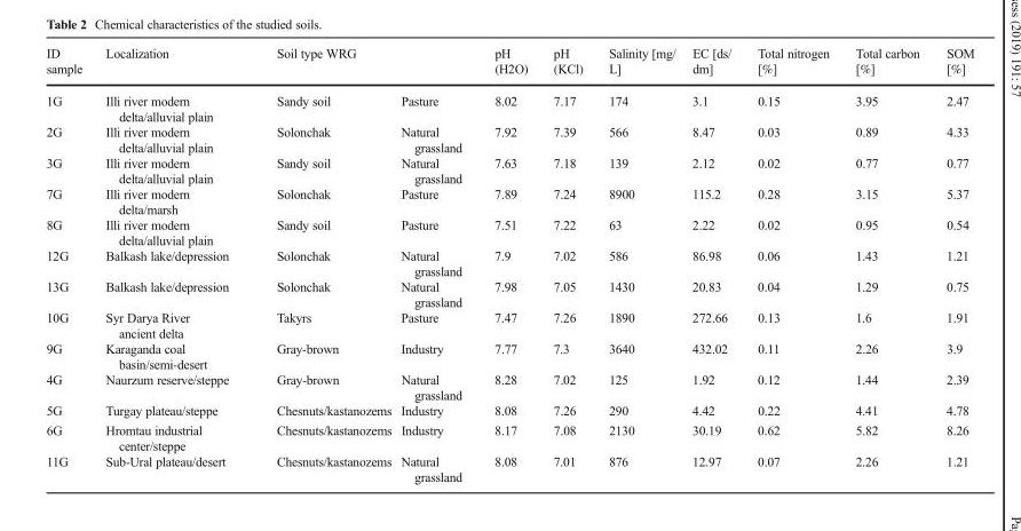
<table><thead><tr><td>ID sample</td><td>Localization</td><td>Soil type WRG</td><td></td><td>pH (H2O)</td><td>pH (KCl)</td><td>Salinity [mg/ L]</td><td>EC [ds/ dm]</td><td>Total nitrogen [%]</td><td>Total carbon [%]</td><td>SOM [%]</td></tr></thead><tbody><tr><td>1G</td><td>Illi river modern delta/alluvial plain</td><td>Sandy soil</td><td>Pasture</td><td>8.02</td><td>7.17</td><td>174</td><td>3.1</td><td>0.15</td><td>3.95</td><td>2.47</td></tr><tr><td>2G</td><td>Illi river modern delta/alluvial plain</td><td>Solonchak</td><td>Natural grassland</td><td>7.92</td><td>7.39</td><td>566</td><td>8.47</td><td>0.03</td><td>0.89</td><td>4.33</td></tr><tr><td>3G</td><td>Illi river modern delta/alluvial plain</td><td>Sandy soil</td><td>Natural grassland</td><td>7.63</td><td>7.18</td><td>139</td><td>2.12</td><td>0.02</td><td>0.77</td><td>0.77</td></tr><tr><td>7G</td><td>Illi river modern delta/marsh</td><td>Solonchak</td><td>Pasture</td><td>7.89</td><td>7.24</td><td>8900</td><td>115.2</td><td>0.28</td><td>3.15</td><td>5.37</td></tr><tr><td>8G</td><td>Illi river modern delta/alluvial plain</td><td>Sandy soil</td><td>Pasture</td><td>7.51</td><td>7.22</td><td>63</td><td>2.22</td><td>0.02</td><td>0.95</td><td>0.54</td></tr><tr><td>12G</td><td>Balkash lake/depression</td><td>Solonchak</td><td>Natural grassland</td><td>7.9</td><td>7.02</td><td>586</td><td>86.98</td><td>0.06</td><td>1.43</td><td>1.21</td></tr><tr><td>13G</td><td>Balkash lake/depression</td><td>Solonchak</td><td>Natural grassland</td><td>7.98</td><td>7.05</td><td>1430</td><td>20.83</td><td>0.04</td><td>1.29</td><td>0.75</td></tr><tr><td>10G</td><td>Syr Darya River ancient delta</td><td>Takyrs</td><td>Pasture</td><td>7.47</td><td>7.26</td><td>1890</td><td>272.66</td><td>0.13</td><td>1.6</td><td>1.91</td></tr><tr><td>9G</td><td>Karaganda coal basin/semi-desert</td><td>Gray-brown</td><td>Industry</td><td>7.77</td><td>7.3</td><td>3640</td><td>432.02</td><td>0.11</td><td>2.26</td><td>3.9</td></tr><tr><td>4G</td><td>Naurzum reserve/steppe</td><td>Gray-brown</td><td>Natural grassland</td><td>8.28</td><td>7.02</td><td>125</td><td>1.92</td><td>0.12</td><td>1.44</td><td>2.39</td></tr><tr><td>5G</td><td>Turgay plateau/steppe</td><td>Chesnuts/kastanozems</td><td>Industry</td><td>8.08</td><td>7.26</td><td>290</td><td>4.42</td><td>0.22</td><td>4.41</td><td>4.78</td></tr><tr><td>6G</td><td>Hromtau industrial center/steppe</td><td>Chesnuts/kastanozems</td><td>Industry</td><td>8.17</td><td>7.08</td><td>2130</td><td>30.19</td><td>0.62</td><td>5.82</td><td>8.26</td></tr><tr><td>11G</td><td>Sub-Ural plateau/desert</td><td>Chesnuts/kastanozems</td><td>Natural grassland</td><td>8.08</td><td>7.01</td><td>876</td><td>12.97</td><td>0.07</td><td>2.26</td><td>1.21</td></tr></tbody></table>